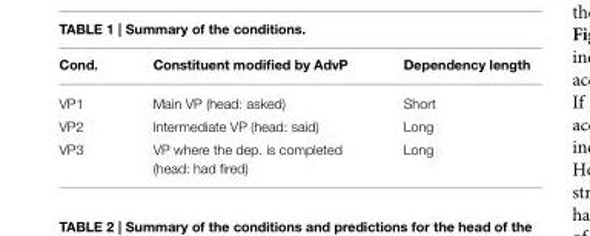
<table><thead><tr><td>Cond.</td><td>Constituent modified by AdvP</td><td>Dependency length</td></tr></thead><tbody><tr><td>VP1</td><td>Main VP (head: asked)</td><td>Short</td></tr><tr><td>VP2</td><td>Intermediate VP (head: said)</td><td>Long</td></tr><tr><td>VP3</td><td>VP where the dep. is completed (head: had fired)</td><td>Long</td></tr></tbody></table>